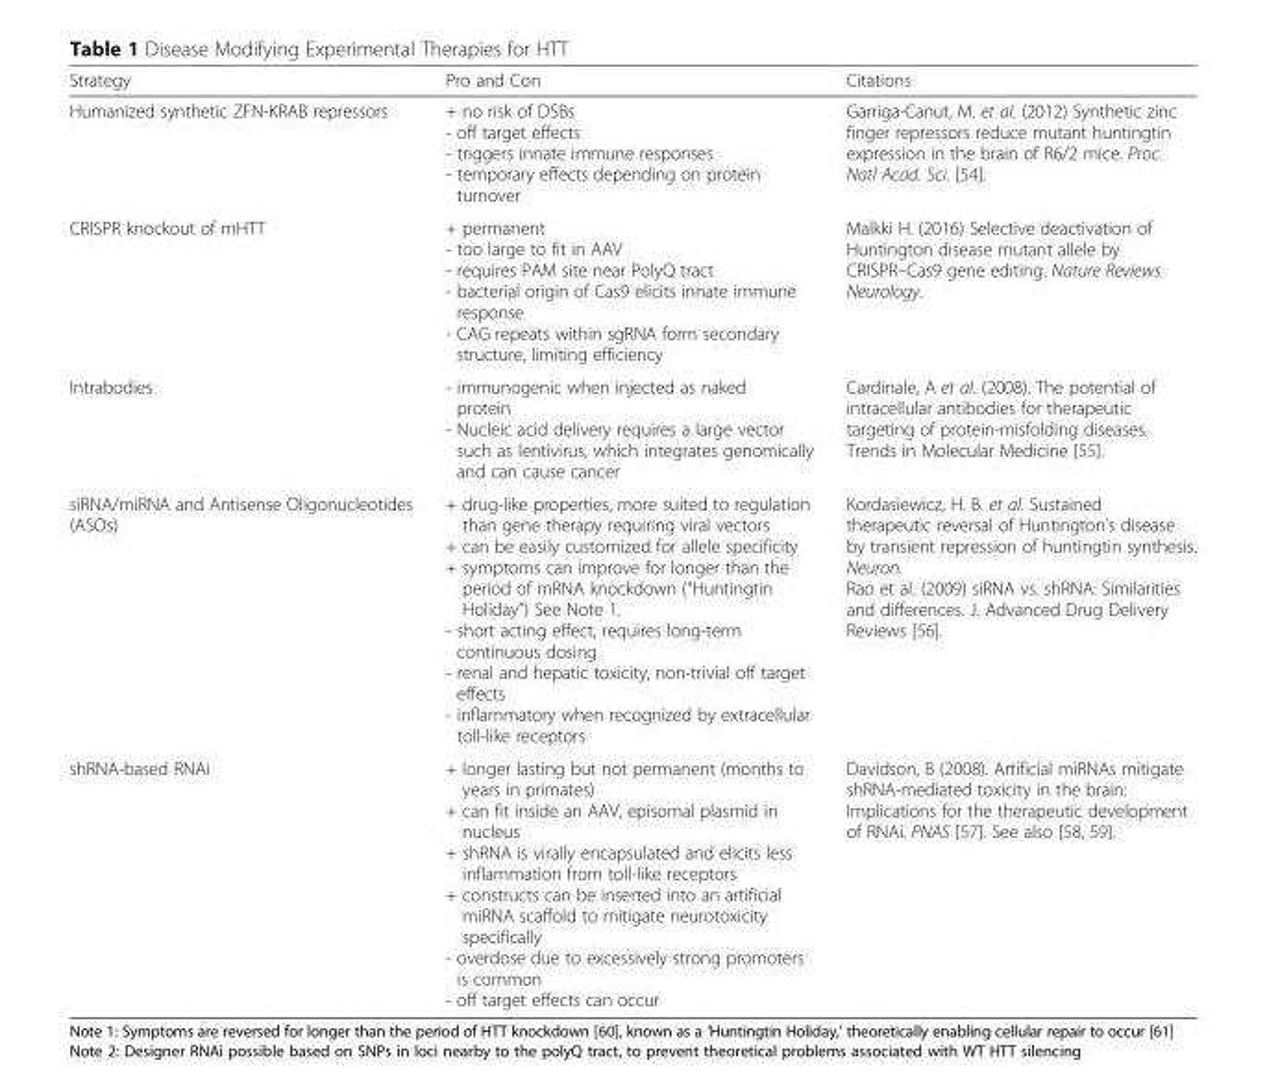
<table><thead><tr><td>Strategy</td><td>Pro and Con</td><td>Citations</td></tr></thead><tbody><tr><td>Humanized synthetic ZFN-KRAB repressors</td><td>+ no risk of DSBs - off target effects - triggers innate immune responses - temporary effects depending on protein turnover</td><td>Garriga-Canut, M. et al. (2012) Synthetic zinc finger repressors reduce mutant huntingtin expression in the brain of R6/2 mice. Proc. Natl Acad. Sci. [54].</td></tr><tr><td>CRISPR knockout of mHTT</td><td>+ permanent - too large to fit in AAV - requires PAM site near PolyQ tract - bacterial origin of Cas9 elicits innate immune response - CAG repeats within sgRNA form secondary structure, limiting efficiency</td><td>Malkki H. (2016) Selective deactivation of Huntington disease mutant allele by CRISPR–Cas9 gene editing. Nature Reviews Neurology.</td></tr><tr><td>Intrabodies</td><td>- immunogenic when injected as naked protein - Nucleic acid delivery requires a large vector such as lentivirus, which integrates genomically and can cause cancer</td><td>Cardinale, A et al. (2008). The potential of intracellular antibodies for therapeutic targeting of protein-misfolding diseases. Trends in Molecular Medicine [55].</td></tr><tr><td>siRNA/miRNA and Antisense Oligonucleotides (ASOs)</td><td>+ drug-like properties, more suited to regulation than gene therapy requiring viral vectors + can be easily customized for allele specificity + symptoms can improve for longer than the period of mRNA knockdown (“Huntingtin Holiday”) See Note 1. - short acting effect, requires long-term continuous dosing - renal and hepatic toxicity, non-trivial off target effects - inflammatory when recognized by extracellular toll-like receptors</td><td>Kordasiewicz, H. B. et al. Sustained therapeutic reversal of Huntington’s disease by transient repression of huntingtin synthesis. Neuron. Rao et al. (2009) siRNA vs. shRNA: Similarities and differences. J. Advanced Drug Delivery Reviews [56].</td></tr><tr><td>shRNA-based RNAi</td><td>+ longer lasting but not permanent (months to years in primates) + can fit inside an AAV, episomal plasmid in nucleus + shRNA is virally encapsulated and elicits less inflammation from toll-like receptors + constructs can be inserted into an artificial miRNA scaffold to mitigate neurotoxicity specifically - overdose due to excessively strong promoters is common - off target effects can occur</td><td>Davidson, B (2008). Artificial miRNAs mitigate shRNA-mediated toxicity in the brain: Implications for the therapeutic development of RNAi. PNAS [57]. See also [58, 59].</td></tr></tbody></table>